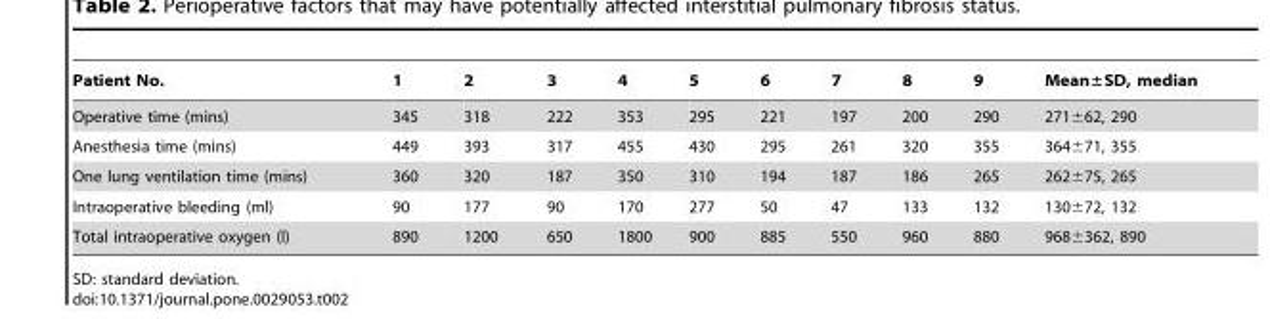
<table><thead><tr><td>Patient No.</td><td>1</td><td>2</td><td>3</td><td>4</td><td>5</td><td>6</td><td>7</td><td>8</td><td>9</td><td>Mean±SD, median</td></tr></thead><tbody><tr><td>Operative time (mins)</td><td>345</td><td>318</td><td>222</td><td>353</td><td>295</td><td>221</td><td>197</td><td>200</td><td>290</td><td>271±62, 290</td></tr><tr><td>Anesthesia time (mins)</td><td>449</td><td>393</td><td>317</td><td>455</td><td>430</td><td>295</td><td>261</td><td>320</td><td>355</td><td>364±71, 355</td></tr><tr><td>One lung ventilation time (mins)</td><td>360</td><td>320</td><td>187</td><td>350</td><td>310</td><td>194</td><td>187</td><td>186</td><td>265</td><td>262±75, 265</td></tr><tr><td>Intraoperative bleeding (ml)</td><td>90</td><td>177</td><td>90</td><td>170</td><td>277</td><td>50</td><td>47</td><td>133</td><td>132</td><td>130±72, 132</td></tr><tr><td>Total intraoperative oxygen (l)</td><td>890</td><td>1200</td><td>650</td><td>1800</td><td>900</td><td>885</td><td>550</td><td>960</td><td>880</td><td>968±362, 890</td></tr></tbody></table>